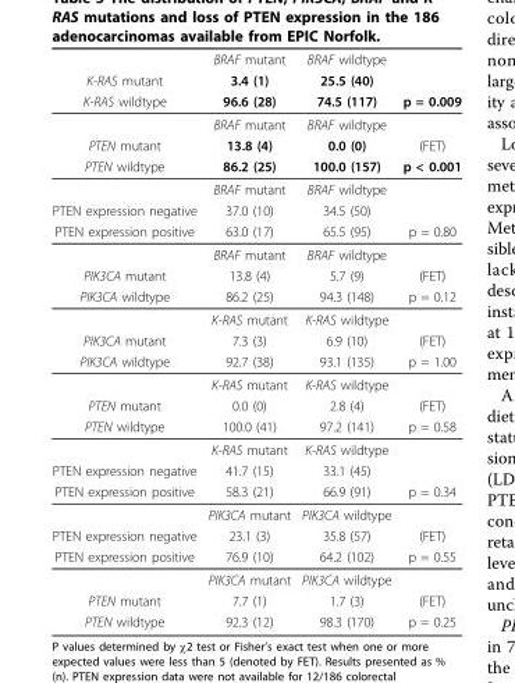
<table><thead><tr><td rowspan="3">K-RAS mutant K-RAS wildtype</td><td rowspan="3">BRAF mutant 3.4 (1) 96.6 (28)</td><td rowspan="3">BRAF wildtype 25.5 (40) 74.5 (117)</td><td rowspan="3">p = 0.009</td></tr><tr></tr><tr></tr></thead><tbody><tr><td></td><td>BRAF mutant</td><td>BRAF wildtype</td><td></td></tr><tr><td>PTEN mutant</td><td>13.8 (4)</td><td>0.0 (0)</td><td>(FET)</td></tr><tr><td rowspan="2">PTEN wildtype</td><td>86.2 (25)</td><td>100.0 (157)</td><td>p &lt; 0.001</td></tr><tr><td>BRAF mutant</td><td>BRAF wildtype</td><td></td></tr><tr><td>PTEN expression negative</td><td>37.0 (10)</td><td>34.5 (50)</td><td></td></tr><tr><td rowspan="2">PTEN expression positive</td><td>63.0 (17)</td><td>65.5 (95)</td><td>p = 0.80</td></tr><tr><td>BRAF mutant</td><td>BRAF wildtype</td><td></td></tr><tr><td>PIK3CA mutant</td><td>13.8 (4)</td><td>5.7 (9)</td><td>(FET)</td></tr><tr><td rowspan="2">PIK3CA wildtype</td><td>86.2 (25)</td><td>94.3 (148)</td><td>p = 0.12</td></tr><tr><td>K-RAS mutant</td><td>K-RAS wildtype</td><td></td></tr><tr><td>PIK3CA mutant</td><td>7.3 (3)</td><td>6.9 (10)</td><td>(FET)</td></tr><tr><td rowspan="2">PIK3CA wildtype</td><td>92.7 (38)</td><td>93.1 (135)</td><td>p = 1.00</td></tr><tr><td>K-RAS mutant</td><td>K-RAS wildtype</td><td></td></tr><tr><td>PTEN mutant</td><td>0.0 (0)</td><td>2.8 (4)</td><td>(FET)</td></tr><tr><td rowspan="2">PTEN wildtype</td><td>100.0 (41)</td><td>97.2 (141)</td><td>p = 0.58</td></tr><tr><td>K-RAS mutant</td><td>K-RAS wildtype</td><td></td></tr><tr><td>PTEN expression negative</td><td>41.7 (15)</td><td>33.1 (45)</td><td></td></tr><tr><td rowspan="2">PTEN expression positive</td><td>58.3 (21)</td><td>66.9 (91)</td><td>p = 0.34</td></tr><tr><td>PIK3CA mutant</td><td>PIK3CA wildtype</td><td></td></tr><tr><td>PTEN expression negative</td><td>23.1 (3)</td><td>35.8 (57)</td><td>(FET)</td></tr><tr><td rowspan="2">PTEN expression positive</td><td>76.9 (10)</td><td>64.2 (102)</td><td>p = 0.55</td></tr><tr><td>PIK3CA mutant</td><td>PIK3CA wildtype</td><td></td></tr><tr><td>PTEN mutant</td><td>7.7 (1)</td><td>1.7 (3)</td><td>(FET)</td></tr><tr><td>PTEN wildtype</td><td>92.3 (12)</td><td>98.3 (170)</td><td>p = 0.25</td></tr></tbody></table>